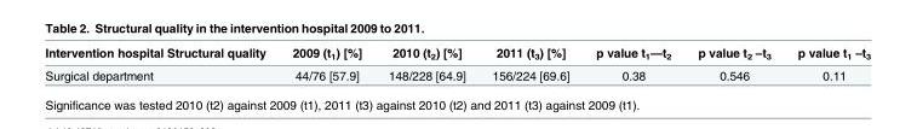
<table><thead><tr><td>Intervention hospital Structural quality</td><td>2009 (t<sub>1</sub>) [%]</td><td>2010 (t<sub>2</sub>) [%]</td><td>2011 (t<sub>3</sub>) [%]</td><td>p value t<sub>1</sub>—t<sub>2</sub></td><td>p value t<sub>2</sub> –t<sub>3</sub></td><td>p value t<sub>1</sub> –t<sub>3</sub></td></tr></thead><tbody><tr><td>Surgical department</td><td>44/76 [57.9]</td><td>148/228 [64.9]</td><td>156/224 [69.6]</td><td>0.38</td><td>0.546</td><td>0.11</td></tr></tbody></table>